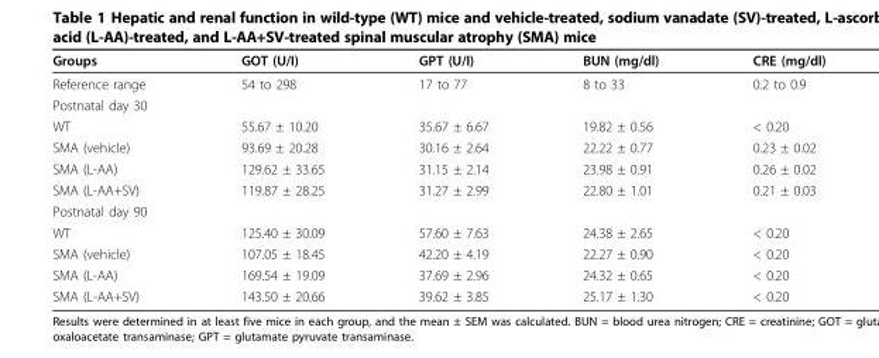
<table><thead><tr><td>Groups</td><td>GOT (U/I)</td><td>GPT (U/I)</td><td>BUN (mg/dl)</td><td>CRE (mg/dl)</td></tr></thead><tbody><tr><td>Reference range</td><td>54 to 298</td><td>17 to 77</td><td>8 to 33</td><td>0.2 to 0.9</td></tr><tr><td colspan="5">Postnatal day 30</td></tr><tr><td>WT</td><td>55.67 ± 10.20</td><td>35.67 ± 6.67</td><td>19.82 ± 0.56</td><td>&lt; 0.20</td></tr><tr><td>SMA (vehicle)</td><td>93.69 ± 20.28</td><td>30.16 ± 2.64</td><td>22.22 ± 0.77</td><td>0.23 ± 0.02</td></tr><tr><td>SMA (L-AA)</td><td>129.62 ± 33.65</td><td>31.15 ± 2.14</td><td>23.98 ± 0.91</td><td>0.26 ± 0.02</td></tr><tr><td>SMA (L-AA+SV)</td><td>119.87 ± 28.25</td><td>31.27 ± 2.99</td><td>22.80 ± 1.01</td><td>0.21 ± 0.03</td></tr><tr><td colspan="5">Postnatal day 90</td></tr><tr><td>WT</td><td>125.40 ± 30.09</td><td>57.60 ± 7.63</td><td>24.38 ± 2.65</td><td>&lt; 0.20</td></tr><tr><td>SMA (vehicle)</td><td>107.05 ± 18.45</td><td>42.20 ± 4.19</td><td>22.27 ± 0.90</td><td>&lt; 0.20</td></tr><tr><td>SMA (L-AA)</td><td>169.54 ± 19.09</td><td>37.69 ± 2.96</td><td>24.32 ± 0.65</td><td>&lt; 0.20</td></tr><tr><td>SMA (L-AA+SV)</td><td>143.50 ± 20.66</td><td>39.62 ± 3.85</td><td>25.17 ± 1.30</td><td>&lt; 0.20</td></tr></tbody></table>